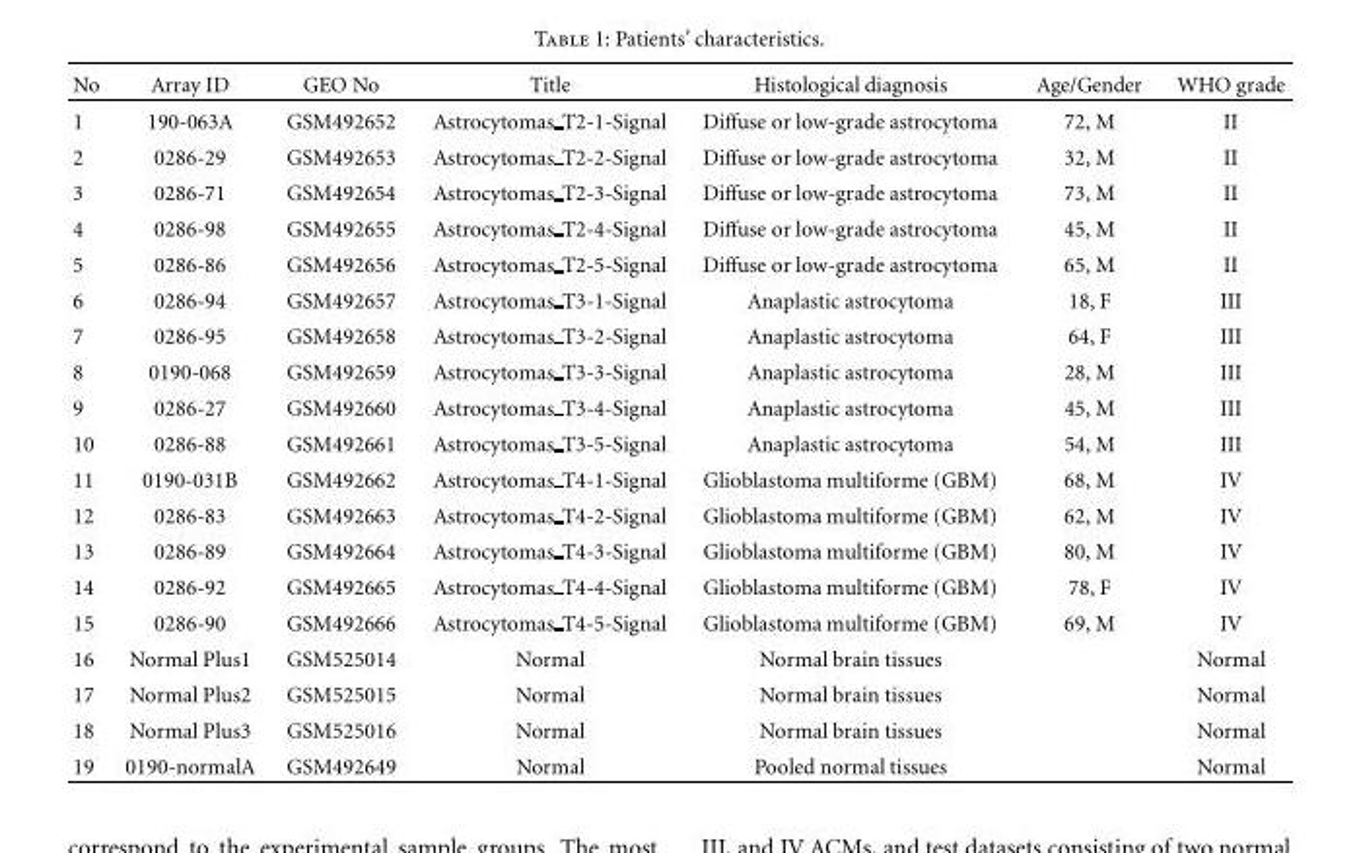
<table><thead><tr><td>No</td><td>Array ID</td><td>GEO No</td><td>Title</td><td>Histological diagnosis</td><td>Age/Gender</td><td>WHO grade</td></tr></thead><tbody><tr><td>1</td><td>190-063A</td><td>GSM492652</td><td>Astrocytomas T2-1-Signal</td><td>Diffuse or low-grade astrocytoma</td><td>72, M</td><td>II</td></tr><tr><td>2</td><td>0286-29</td><td>GSM492653</td><td>Astrocytomas T2-2-Signal</td><td>Diffuse or low-grade astrocytoma</td><td>32, M</td><td>II</td></tr><tr><td>3</td><td>0286-71</td><td>GSM492654</td><td>Astrocytomas T2-3-Signal</td><td>Diffuse or low-grade astrocytoma</td><td>73, M</td><td>II</td></tr><tr><td>4</td><td>0286-98</td><td>GSM492655</td><td>Astrocytomas T2-4-Signal</td><td>Diffuse or low-grade astrocytoma</td><td>45, M</td><td>II</td></tr><tr><td>5</td><td>0286-86</td><td>GSM492656</td><td>Astrocytomas T2-5-Signal</td><td>Diffuse or low-grade astrocytoma</td><td>65, M</td><td>II</td></tr><tr><td>6</td><td>0286-94</td><td>GSM492657</td><td>Astrocytomas T3-1-Signal</td><td>Anaplastic astrocytoma</td><td>18, F</td><td>III</td></tr><tr><td>7</td><td>0286-95</td><td>GSM492658</td><td>Astrocytomas T3-2-Signal</td><td>Anaplastic astrocytoma</td><td>64, F</td><td>III</td></tr><tr><td>8</td><td>0190-068</td><td>GSM492659</td><td>Astrocytomas T3-3-Signal</td><td>Anaplastic astrocytoma</td><td>28, M</td><td>III</td></tr><tr><td>9</td><td>0286-27</td><td>GSM492660</td><td>Astrocytomas T3-4-Signal</td><td>Anaplastic astrocytoma</td><td>45, M</td><td>III</td></tr><tr><td>10</td><td>0286-88</td><td>GSM492661</td><td>Astrocytomas T3-5-Signal</td><td>Anaplastic astrocytoma</td><td>54, M</td><td>III</td></tr><tr><td>11</td><td>0190-031B</td><td>GSM492662</td><td>Astrocytomas T4-1-Signal</td><td>Glioblastoma multiforme (GBM)</td><td>68, M</td><td>IV</td></tr><tr><td>12</td><td>0286-83</td><td>GSM492663</td><td>Astrocytomas T4-2-Signal</td><td>Glioblastoma multiforme (GBM)</td><td>62, M</td><td>IV</td></tr><tr><td>13</td><td>0286-89</td><td>GSM492664</td><td>Astrocytomas T4-3-Signal</td><td>Glioblastoma multiforme (GBM)</td><td>80, M</td><td>IV</td></tr><tr><td>14</td><td>0286-92</td><td>GSM492665</td><td>Astrocytomas T4-4-Signal</td><td>Glioblastoma multiforme (GBM)</td><td>78, F</td><td>IV</td></tr><tr><td>15</td><td>0286-90</td><td>GSM492666</td><td>Astrocytomas T4-5-Signal</td><td>Glioblastoma multiforme (GBM)</td><td>69, M</td><td>IV</td></tr><tr><td>16</td><td>Normal Plus1</td><td>GSM525014</td><td>Normal</td><td>Normal brain tissues</td><td></td><td>Normal</td></tr><tr><td>17</td><td>Normal Plus2</td><td>GSM525015</td><td>Normal</td><td>Normal brain tissues</td><td></td><td>Normal</td></tr><tr><td>18</td><td>Normal Plus3</td><td>GSM525016</td><td>Normal</td><td>Normal brain tissues</td><td></td><td>Normal</td></tr><tr><td>19</td><td>0190-normalA</td><td>GSM492649</td><td>Normal</td><td>Pooled normal tissues</td><td></td><td>Normal</td></tr></tbody></table>